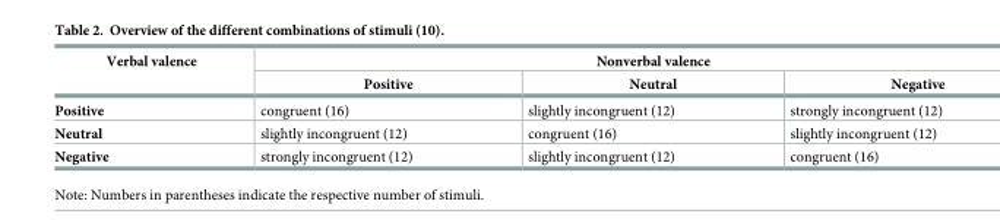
<table><thead><tr><td rowspan="2">Verbal valence</td><td colspan="3">Nonverbal valence</td></tr><tr><td>Positive</td><td>Neutral</td><td>Negative</td></tr></thead><tbody><tr><td>Positive</td><td>congruent (16)</td><td>slightly incongruent (12)</td><td>strongly incongruent (12)</td></tr><tr><td>Neutral</td><td>slightly incongruent (12)</td><td>congruent (16)</td><td>slightly incongruent (12)</td></tr><tr><td>Negative</td><td>strongly incongruent (12)</td><td>slightly incongruent (12)</td><td>congruent (16)</td></tr></tbody></table>